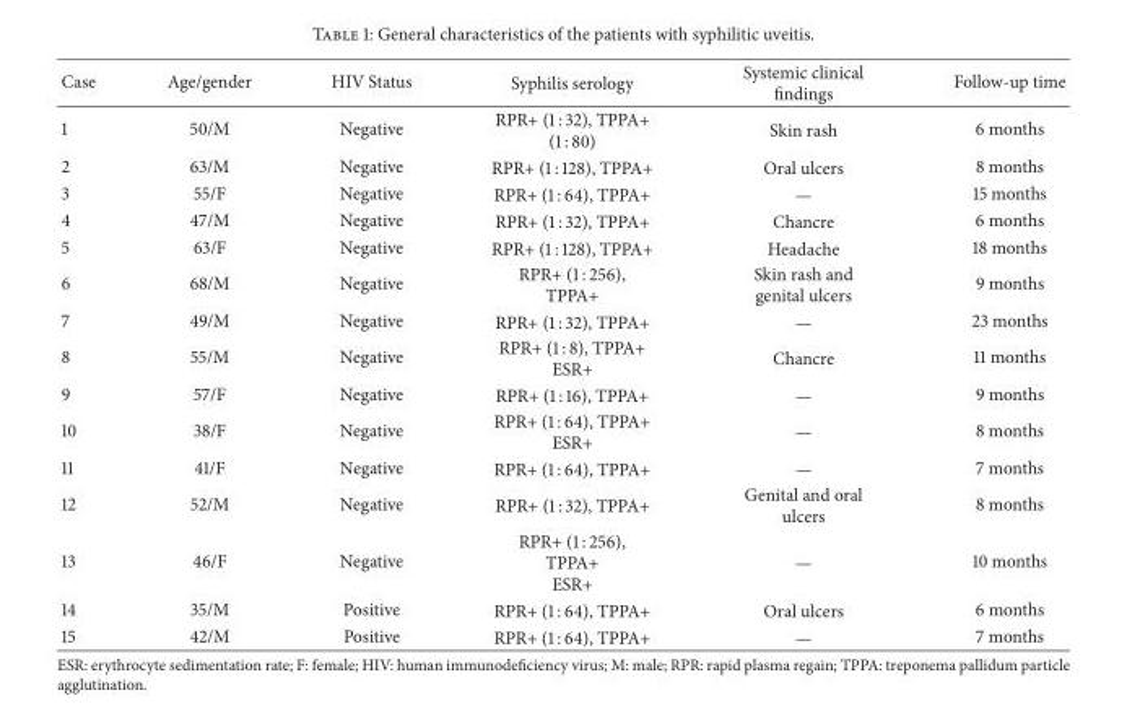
<table><thead><tr><td>Case</td><td>Age/gender</td><td>HIV Status</td><td>Syphilis serology</td><td>Systemic clinical findings</td><td>Follow-up time</td></tr></thead><tbody><tr><td>1</td><td>50/M</td><td>Negative</td><td>RPR+ (1 : 32), TPPA+ (1 : 80)</td><td>Skin rash</td><td>6 months</td></tr><tr><td>2</td><td>63/M</td><td>Negative</td><td>RPR+ (1 : 128), TPPA+</td><td>Oral ulcers</td><td>8 months</td></tr><tr><td>3</td><td>55/F</td><td>Negative</td><td>RPR+ (1 : 64), TPPA+</td><td>—</td><td>15 months</td></tr><tr><td>4</td><td>47/M</td><td>Negative</td><td>RPR+ (1 : 32), TPPA+</td><td>Chancre</td><td>6 months</td></tr><tr><td>5</td><td>63/F</td><td>Negative</td><td>RPR+ (1 : 128), TPPA+</td><td>Headache</td><td>18 months</td></tr><tr><td>6</td><td>68/M</td><td>Negative</td><td>RPR+ (1 : 256), TPPA+</td><td>Skin rash and genital ulcers</td><td>9 months</td></tr><tr><td>7</td><td>49/M</td><td>Negative</td><td>RPR+ (1 : 32), TPPA+</td><td>—</td><td>23 months</td></tr><tr><td>8</td><td>55/M</td><td>Negative</td><td>RPR+ (1 : 8), TPPA+ ESR+</td><td>Chancre</td><td>11 months</td></tr><tr><td>9</td><td>57/F</td><td>Negative</td><td>RPR+ (1 : 16), TPPA+</td><td>—</td><td>9 months</td></tr><tr><td>10</td><td>38/F</td><td>Negative</td><td>RPR+ (1 : 64), TPPA+ ESR+</td><td>—</td><td>8 months</td></tr><tr><td>11</td><td>41/F</td><td>Negative</td><td>RPR+ (1 : 64), TPPA+</td><td>—</td><td>7 months</td></tr><tr><td>12</td><td>52/M</td><td>Negative</td><td>RPR+ (1 : 32), TPPA+</td><td>Genital and oral ulcers</td><td>8 months</td></tr><tr><td>13</td><td>46/F</td><td>Negative</td><td>RPR+ (1 : 256), TPPA+ ESR+</td><td>—</td><td>10 months</td></tr><tr><td>14</td><td>35/M</td><td>Positive</td><td>RPR+ (1 : 64), TPPA+</td><td>Oral ulcers</td><td>6 months</td></tr><tr><td>15</td><td>42/M</td><td>Positive</td><td>RPR+ (1 : 64), TPPA+</td><td>—</td><td>7 months</td></tr></tbody></table>